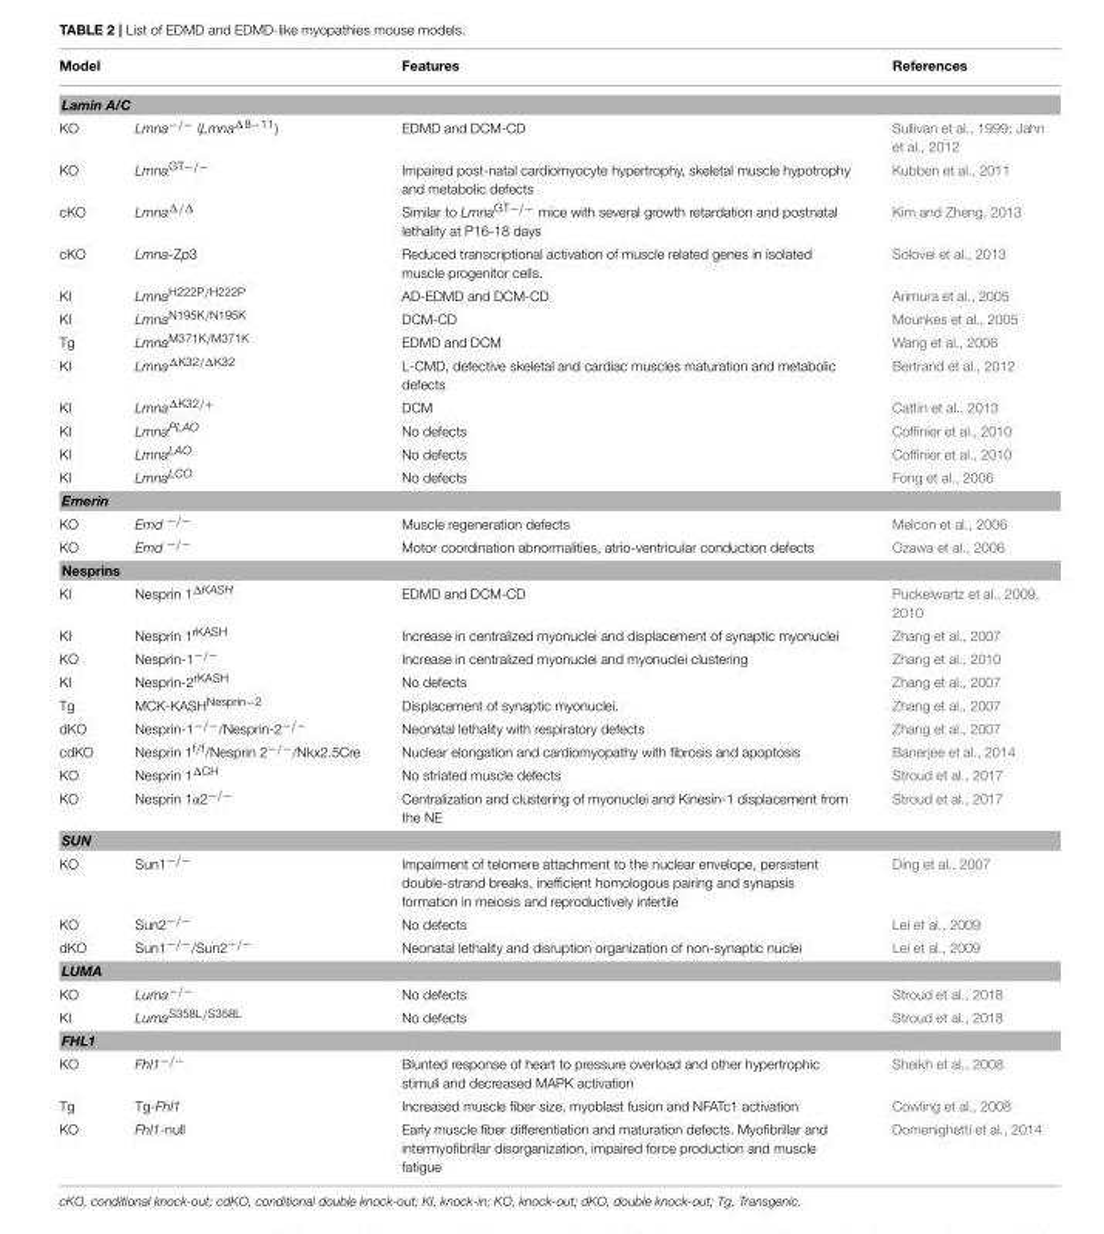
<table><thead><tr><td colspan="2">Model</td><td>Features</td><td>References</td></tr><tr><td colspan="4">Lamin A/C</td></tr><tr><td>KO</td><td>Lmna<sup>−/−</sup> (Lmna<sup>Δ8−11</sup>)</td><td>EDMD and DCM-CD</td><td>Sullivan et al., 1999; Jahn et al., 2012</td></tr></thead><tbody><tr><td>KO</td><td>Lmna<sup>GT−/−</sup></td><td>Impaired post-natal cardiomyocyte hypertrophy, skeletal muscle hypotrophy and metabolic defects</td><td>Kubben et al., 2011</td></tr><tr><td>cKO</td><td>Lmna<sup>Δ/Δ</sup></td><td>Similar to Lmna<sup>GT−/−</sup> mice with several growth retardation and postnatal lethality at P16-18 days</td><td>Kim and Zheng, 2013</td></tr><tr><td>cKO</td><td>Lmna-Zp3</td><td>Reduced transcriptional activation of muscle related genes in isolated muscle progenitor cells.</td><td>Solovei et al., 2013</td></tr><tr><td>KI</td><td>Lmna<sup>H222P/H222P</sup></td><td>AD-EDMD and DCM-CD</td><td>Arimura et al., 2005</td></tr><tr><td>KI</td><td>Lmna<sup>N195K/N195K</sup></td><td>DCM-CD</td><td>Mounkes et al., 2005</td></tr><tr><td>Tg</td><td>Lmna<sup>M371K/M371K</sup></td><td>EDMD and DCM</td><td>Wang et al., 2006</td></tr><tr><td>KI</td><td>Lmna<sup>ΔK32/ΔK32</sup></td><td>L-CMD, defective skeletal and cardiac muscles maturation and metabolic defects</td><td>Bertrand et al., 2012</td></tr><tr><td>KI</td><td>Lmna<sup>ΔK32/+</sup></td><td>DCM</td><td>Cattin et al., 2013</td></tr><tr><td>KI</td><td>LmnaPLAO</td><td>No defects</td><td>Coffinier et al., 2010</td></tr><tr><td>KI</td><td>LmnaLAO</td><td>No defects</td><td>Coffinier et al., 2010</td></tr><tr><td>KI</td><td>LmnaLCO</td><td>No defects</td><td>Fong et al., 2006</td></tr><tr><td colspan="4">Emerin</td></tr><tr><td>KO</td><td>Emd <sup>−/−</sup></td><td>Muscle regeneration defects</td><td>Melcon et al., 2006</td></tr><tr><td>KO</td><td>Emd <sup>−/−</sup></td><td>Motor coordination abnormalities, atrio-ventricular conduction defects</td><td>Ozawa et al., 2006</td></tr><tr><td colspan="4">Nesprins</td></tr><tr><td>KI</td><td>Nesprin 1<sup>ΔKASH</sup></td><td>EDMD and DCM-CD</td><td>Puckelwartz et al., 2009, 2010</td></tr><tr><td>KI</td><td>Nesprin 1<sup>rKASH</sup></td><td>Increase in centralized myonuclei and displacement of synaptic myonuclei</td><td>Zhang et al., 2007</td></tr><tr><td>KO</td><td>Nesprin-1<sup>−/−</sup></td><td>Increase in centralized myonuclei and myonuclei clustering</td><td>Zhang et al., 2010</td></tr><tr><td>KI</td><td>Nesprin-2<sup>rKASH</sup></td><td>No defects</td><td>Zhang et al., 2007</td></tr><tr><td>Tg</td><td>MCK-KASH<sup>Nesprin−2</sup></td><td>Displacement of synaptic myonuclei.</td><td>Zhang et al., 2007</td></tr><tr><td>dKO</td><td>Nesprin-1<sup>−/−</sup>/Nesprin-2<sup>−/−</sup></td><td>Neonatal lethality with respiratory defects</td><td>Zhang et al., 2007</td></tr><tr><td>cdKO</td><td>Nesprin 1<sup>f/f</sup>/Nesprin 2<sup>−/−</sup>/Nkx2.5Cre</td><td>Nuclear elongation and cardiomyopathy with fibrosis and apoptosis</td><td>Banerjee et al., 2014</td></tr><tr><td>KO</td><td>Nesprin 1<sup>ΔCH</sup></td><td>No striated muscle defects</td><td>Stroud et al., 2017</td></tr><tr><td>KO</td><td>Nesprin 1α2<sup>−/−</sup></td><td>Centralization and clustering of myonuclei and Kinesin-1 displacement from the NE</td><td>Stroud et al., 2017</td></tr><tr><td colspan="4">SUN</td></tr><tr><td>KO</td><td>Sun1<sup>−/−</sup></td><td>Impairment of telomere attachment to the nuclear envelope, persistent double-strand breaks, inefficient homologous pairing and synapsis formation in meiosis and reproductively infertile</td><td>Ding et al., 2007</td></tr><tr><td>KO</td><td>Sun2<sup>−/−</sup></td><td>No defects</td><td>Lei et al., 2009</td></tr><tr><td>dKO</td><td>Sun1<sup>−/−</sup>/Sun2<sup>−/−</sup></td><td>Neonatal lethality and disruption organization of non-synaptic nuclei</td><td>Lei et al., 2009</td></tr><tr><td colspan="4">LUMA</td></tr><tr><td>KO</td><td>Luma<sup>−/−</sup></td><td>No defects</td><td>Stroud et al., 2018</td></tr><tr><td>KI</td><td>Luma<sup>S358L/S358L</sup></td><td>No defects</td><td>Stroud et al., 2018</td></tr><tr><td colspan="4">FHL1</td></tr><tr><td>KO</td><td>Fhl1<sup>−/−</sup></td><td>Blunted response of heart to pressure overload and other hypertrophic stimuli and decreased MAPK activation</td><td>Sheikh et al., 2008</td></tr><tr><td>Tg</td><td>Tg-Fhl1</td><td>Increased muscle fiber size, myoblast fusion and NFATc1 activation</td><td>Cowling et al., 2008</td></tr><tr><td>KO</td><td>Fhl1-null</td><td>Early muscle fiber differentiation and maturation defects. Myofibrillar and intermyofibrillar disorganization, impaired force production and muscle fatigue</td><td>Domenighetti et al., 2014</td></tr></tbody></table>